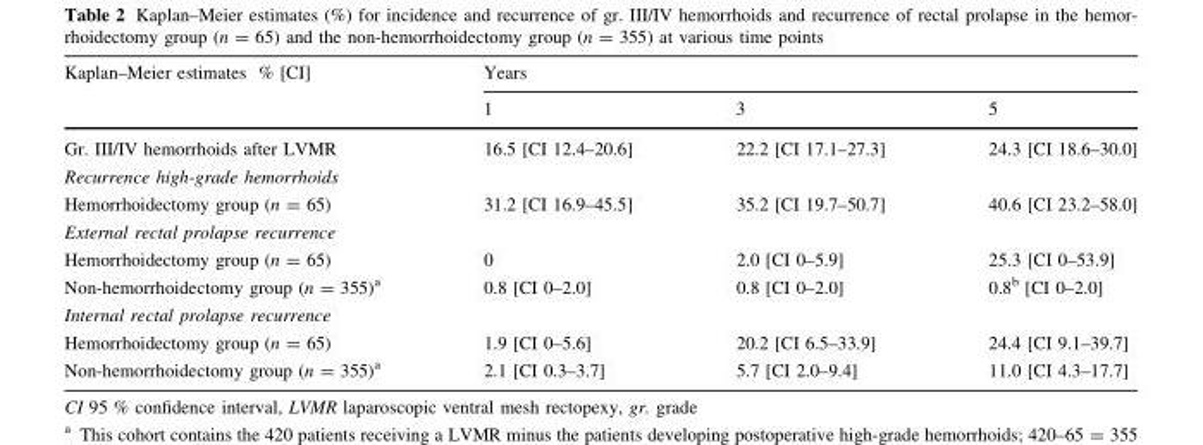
<table><thead><tr><td rowspan="2">Kaplan–Meier estimates % [CI]</td><td colspan="3">Years</td></tr><tr><td>1</td><td>3</td><td>5</td></tr></thead><tbody><tr><td>Gr. III/IV hemorrhoids after LVMR</td><td>16.5 [CI 12.4–20.6]</td><td>22.2 [CI 17.1–27.3]</td><td>24.3 [CI 18.6–30.0]</td></tr><tr><td colspan="4">Recurrence high-grade hemorrhoids</td></tr><tr><td>Hemorrhoidectomy group (n = 65)</td><td>31.2 [CI 16.9–45.5]</td><td>35.2 [CI 19.7–50.7]</td><td>40.6 [CI 23.2–58.0]</td></tr><tr><td colspan="4">External rectal prolapse recurrence</td></tr><tr><td>Hemorrhoidectomy group (n = 65)</td><td>0</td><td>2.0 [CI 0–5.9]</td><td>25.3 [CI 0–53.9]</td></tr><tr><td>Non-hemorrhoidectomy group (n = 355)<sup>a</sup></td><td>0.8 [CI 0–2.0]</td><td>0.8 [CI 0–2.0]</td><td>0.8<sup>b</sup> [CI 0–2.0]</td></tr><tr><td colspan="4">Internal rectal prolapse recurrence</td></tr><tr><td>Hemorrhoidectomy group (n = 65)</td><td>1.9 [CI 0–5.6]</td><td>20.2 [CI 6.5–33.9]</td><td>24.4 [CI 9.1–39.7]</td></tr><tr><td>Non-hemorrhoidectomy group (n = 355)<sup>a</sup></td><td>2.1 [CI 0.3–3.7]</td><td>5.7 [CI 2.0–9.4]</td><td>11.0 [CI 4.3–17.7]</td></tr></tbody></table>